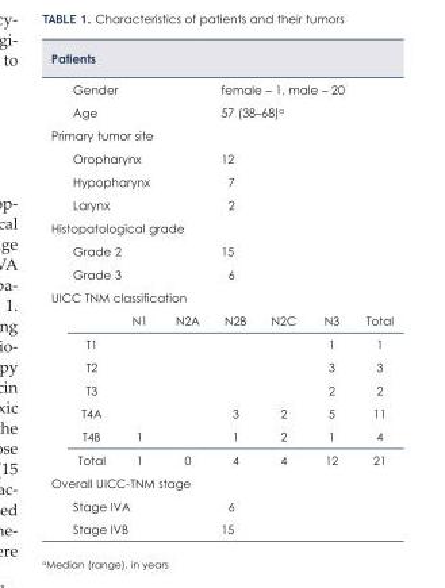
<table><thead><tr><td colspan="3">Patients</td><td></td><td></td><td></td><td></td></tr></thead><tbody><tr><td colspan="3">Gender</td><td colspan="4">female – 1, male – 20</td></tr><tr><td colspan="3">Age</td><td colspan="4">57 (38–68)<sup>a</sup></td></tr><tr><td colspan="7">Primary tumor site</td></tr><tr><td colspan="3">Oropharynx</td><td colspan="4">12</td></tr><tr><td colspan="3">Hypopharynx</td><td colspan="4">7</td></tr><tr><td colspan="3">Larynx</td><td colspan="4">2</td></tr><tr><td colspan="7">Histopatological grade</td></tr><tr><td colspan="3">Grade 2</td><td colspan="4">15</td></tr><tr><td colspan="3">Grade 3</td><td colspan="4">6</td></tr><tr><td colspan="7">UICC TNM classification</td></tr><tr><td></td><td>N1</td><td>N2A</td><td>N2B</td><td>N2C</td><td>N3</td><td>Total</td></tr><tr><td>T1</td><td></td><td></td><td></td><td></td><td>1</td><td>1</td></tr><tr><td>T2</td><td></td><td></td><td></td><td></td><td>3</td><td>3</td></tr><tr><td>T3</td><td></td><td></td><td></td><td></td><td>2</td><td>2</td></tr><tr><td>T4A</td><td></td><td></td><td>3</td><td>2</td><td>5</td><td>11</td></tr><tr><td>T4B</td><td>1</td><td></td><td>1</td><td>2</td><td>1</td><td>4</td></tr><tr><td>Total</td><td>1</td><td>0</td><td>4</td><td>4</td><td>12</td><td>21</td></tr><tr><td colspan="7">Overall UICC-TNM stage</td></tr><tr><td>Stage IVA</td><td></td><td></td><td>6</td><td></td><td></td><td></td></tr><tr><td>Stage IVB</td><td></td><td></td><td>15</td><td></td><td></td><td></td></tr></tbody></table>